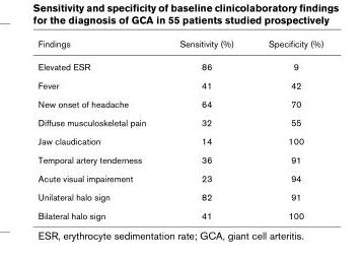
<table><thead><tr><td>Findings</td><td>Sensitivity (%)</td><td>Specificity (%)</td></tr></thead><tbody><tr><td>Elevated ESR</td><td>86</td><td>9</td></tr><tr><td>Fever</td><td>41</td><td>42</td></tr><tr><td>New onset of headache</td><td>64</td><td>70</td></tr><tr><td>Diffuse musculoskeletal pain</td><td>32</td><td>55</td></tr><tr><td>Jaw claudication</td><td>14</td><td>100</td></tr><tr><td>Temporal artery tenderness</td><td>36</td><td>91</td></tr><tr><td>Acute visual impairement</td><td>23</td><td>94</td></tr><tr><td>Unilateral halo sign</td><td>82</td><td>91</td></tr><tr><td>Bilateral halo sign</td><td>41</td><td>100</td></tr></tbody></table>